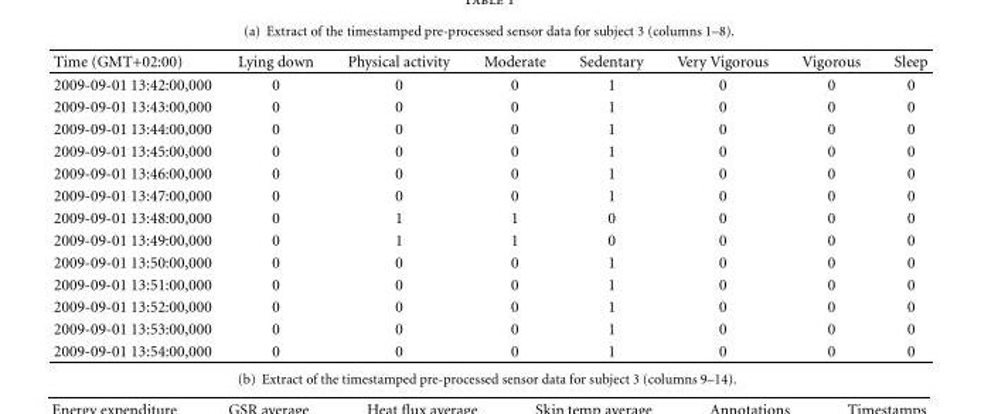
<table><thead><tr><td>Time (GMT+02:00)</td><td>Lying down</td><td>Physical activity</td><td>Moderate</td><td>Sedentary</td><td>Very Vigorous</td><td>Vigorous</td><td>Sleep</td></tr></thead><tbody><tr><td>2009-09-01 13:42:00,000</td><td>0</td><td>0</td><td>0</td><td>1</td><td>0</td><td>0</td><td>0</td></tr><tr><td>2009-09-01 13:43:00,000</td><td>0</td><td>0</td><td>0</td><td>1</td><td>0</td><td>0</td><td>0</td></tr><tr><td>2009-09-01 13:44:00,000</td><td>0</td><td>0</td><td>0</td><td>1</td><td>0</td><td>0</td><td>0</td></tr><tr><td>2009-09-01 13:45:00,000</td><td>0</td><td>0</td><td>0</td><td>1</td><td>0</td><td>0</td><td>0</td></tr><tr><td>2009-09-01 13:46:00,000</td><td>0</td><td>0</td><td>0</td><td>1</td><td>0</td><td>0</td><td>0</td></tr><tr><td>2009-09-01 13:47:00,000</td><td>0</td><td>0</td><td>0</td><td>1</td><td>0</td><td>0</td><td>0</td></tr><tr><td>2009-09-01 13:48:00,000</td><td>0</td><td>1</td><td>1</td><td>0</td><td>0</td><td>0</td><td>0</td></tr><tr><td>2009-09-01 13:49:00,000</td><td>0</td><td>1</td><td>1</td><td>0</td><td>0</td><td>0</td><td>0</td></tr><tr><td>2009-09-01 13:50:00,000</td><td>0</td><td>0</td><td>0</td><td>1</td><td>0</td><td>0</td><td>0</td></tr><tr><td>2009-09-01 13:51:00,000</td><td>0</td><td>0</td><td>0</td><td>1</td><td>0</td><td>0</td><td>0</td></tr><tr><td>2009-09-01 13:52:00,000</td><td>0</td><td>0</td><td>0</td><td>1</td><td>0</td><td>0</td><td>0</td></tr><tr><td>2009-09-01 13:53:00,000</td><td>0</td><td>0</td><td>0</td><td>1</td><td>0</td><td>0</td><td>0</td></tr><tr><td>2009-09-01 13:54:00,000</td><td>0</td><td>0</td><td>0</td><td>1</td><td>0</td><td>0</td><td>0</td></tr></tbody></table>